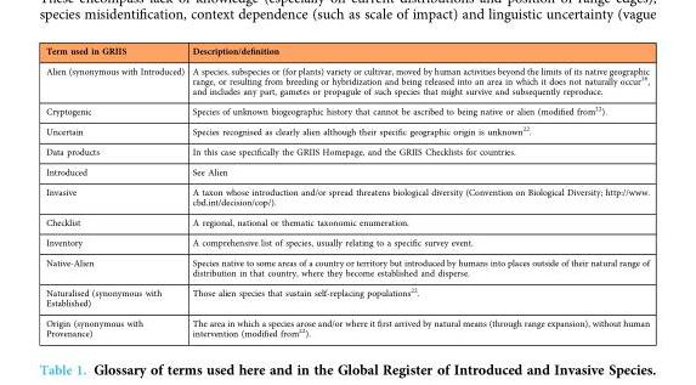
<table><thead><tr><td>Term used in GRIIS</td><td>Description/definition</td></tr></thead><tbody><tr><td>Alien (synonymous with Introduced)</td><td>A species, subspecies or (for plants) variety or cultivar, moved by human activities beyond the limits of its native geographic range, or resulting from breeding or hybridization and being released into an area in which it does not naturally occur<sup>16</sup>, and includes any part, gametes or propagule of such species that might survive and subsequently reproduce.</td></tr><tr><td>Cryptogenic</td><td>Species of unknown biogeographic history that cannot be ascribed to being native or alien (modified from<sup>22</sup>).</td></tr><tr><td>Uncertain</td><td>Species recognised as clearly alien although their specific geographic origin is unknown<sup>22</sup>.</td></tr><tr><td>Data products</td><td>In this case specifically the GRIIS Homepage, and the GRIIS Checklists for countries.</td></tr><tr><td>Introduced</td><td>See Alien</td></tr><tr><td>Invasive</td><td>A taxon whose introduction and/or spread threatens biological diversity (Convention on Biological Diversity; http://www. cbd.int/decision/cop/).</td></tr><tr><td>Checklist</td><td>A regional, national or thematic taxonomic enumeration.</td></tr><tr><td>Inventory</td><td>A comprehensive list of species, usually relating to a specific survey event.</td></tr><tr><td>Native-Alien</td><td>Species native to some areas of a country or territory but introduced by humans into places outside of their natural range of distribution in that country, where they become established and disperse.</td></tr><tr><td>Naturalised (synonymous with Established)</td><td>Those alien species that sustain self-replacing populations<sup>22</sup>.</td></tr><tr><td>Origin (synonymous with Provenance)</td><td>The area in which a species arose and/or where it first arrived by natural means (through range expansion), without human intervention (modified from<sup>22</sup>).</td></tr></tbody></table>